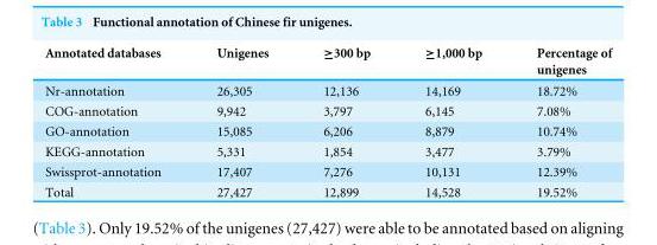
<table><thead><tr><td>Annotated databases</td><td>Unigenes</td><td>≥300 bp</td><td>≥1,000 bp</td><td>Percentage of unigenes</td></tr></thead><tbody><tr><td>Nr-annotation</td><td>26,305</td><td>12,136</td><td>14,169</td><td>18.72%</td></tr><tr><td>COG-annotation</td><td>9,942</td><td>3,797</td><td>6,145</td><td>7.08%</td></tr><tr><td>GO-annotation</td><td>15,085</td><td>6,206</td><td>8,879</td><td>10.74%</td></tr><tr><td>KEGG-annotation</td><td>5,331</td><td>1,854</td><td>3,477</td><td>3.79%</td></tr><tr><td>Swissprot-annotation</td><td>17,407</td><td>7,276</td><td>10,131</td><td>12.39%</td></tr><tr><td>Total</td><td>27,427</td><td>12,899</td><td>14,528</td><td>19.52%</td></tr></tbody></table>